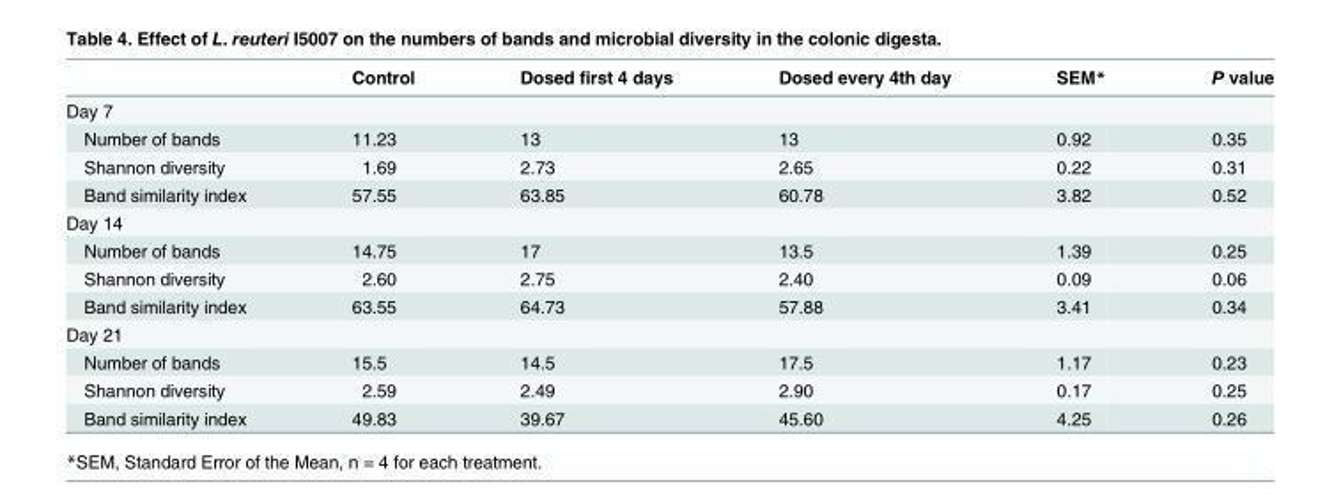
<table><thead><tr><td></td><td>Control</td><td>Dosed first 4 days</td><td>Dosed every 4th day</td><td>SEM*</td><td>P value</td></tr></thead><tbody><tr><td colspan="6">Day 7</td></tr><tr><td>Number of bands</td><td>11.23</td><td>13</td><td>13</td><td>0.92</td><td>0.35</td></tr><tr><td>Shannon diversity</td><td>1.69</td><td>2.73</td><td>2.65</td><td>0.22</td><td>0.31</td></tr><tr><td>Band similarity index</td><td>57.55</td><td>63.85</td><td>60.78</td><td>3.82</td><td>0.52</td></tr><tr><td colspan="6">Day 14</td></tr><tr><td>Number of bands</td><td>14.75</td><td>17</td><td>13.5</td><td>1.39</td><td>0.25</td></tr><tr><td>Shannon diversity</td><td>2.60</td><td>2.75</td><td>2.40</td><td>0.09</td><td>0.06</td></tr><tr><td>Band similarity index</td><td>63.55</td><td>64.73</td><td>57.88</td><td>3.41</td><td>0.34</td></tr><tr><td colspan="6">Day 21</td></tr><tr><td>Number of bands</td><td>15.5</td><td>14.5</td><td>17.5</td><td>1.17</td><td>0.23</td></tr><tr><td>Shannon diversity</td><td>2.59</td><td>2.49</td><td>2.90</td><td>0.17</td><td>0.25</td></tr><tr><td>Band similarity index</td><td>49.83</td><td>39.67</td><td>45.60</td><td>4.25</td><td>0.26</td></tr></tbody></table>